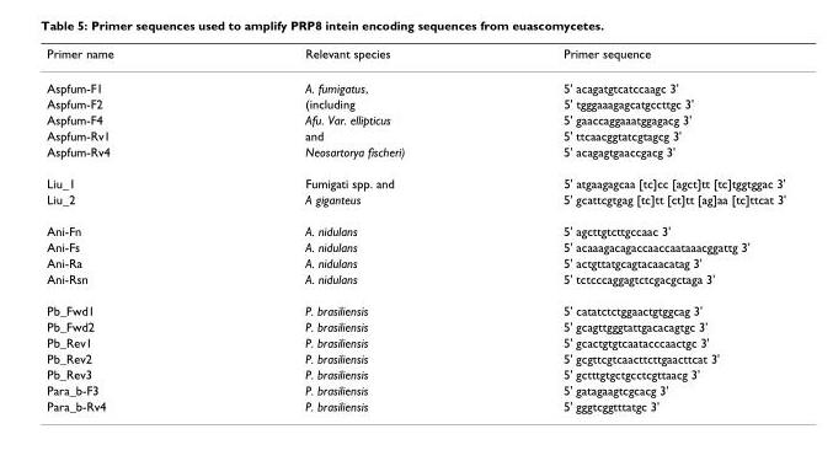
<table><thead><tr><td>Primer name</td><td>Relevant species</td><td>Primer sequence</td></tr></thead><tbody><tr><td>Aspfum-F1</td><td>A. fumigatus,</td><td>5&#x27; acagatgtcatccaagc 3&#x27;</td></tr><tr><td>Aspfum-F2</td><td>(including</td><td>5&#x27; tgggaaagagcatgccttgc 3&#x27;</td></tr><tr><td>Aspfum-F4</td><td>Afu. Var. ellipticus</td><td>5&#x27; gaaccaggaaatggagacg 3&#x27;</td></tr><tr><td>Aspfum-Rv1</td><td>and</td><td>5&#x27; ttcaacggtatcgtagcg 3&#x27;</td></tr><tr><td>Aspfum-Rv4</td><td>Neosartorya fischeri)</td><td>5&#x27; acagagtgaaccgacg 3&#x27;</td></tr><tr><td>Liu_1</td><td>Fumigati spp. and</td><td>5&#x27; atgaagagcaa [tc]cc [agct]tt [tc]tggtggac 3&#x27;</td></tr><tr><td>Liu_2</td><td>A giganteus</td><td>5&#x27; gcattcgtgag [tc]tt [ct]tt [ag]aa [tc]ttcat 3&#x27;</td></tr><tr><td>Ani-Fn</td><td>A. nidulans</td><td>5&#x27; agcttgtcttgccaac 3&#x27;</td></tr><tr><td>Ani-Fs</td><td>A. nidulans</td><td>5&#x27; acaaagacagaccaaccaataaacggattg 3&#x27;</td></tr><tr><td>Ani-Ra</td><td>A. nidulans</td><td>5&#x27; actgttatgcagtacaacatag 3&#x27;</td></tr><tr><td>Ani-Rsn</td><td>A. nidulans</td><td>5&#x27; tctcccaggagtctcgacgctaga 3&#x27;</td></tr><tr><td>Pb_Fwd1</td><td>P. brasiliensis</td><td>5&#x27; catatctctggaactgtggcag 3&#x27;</td></tr><tr><td>Pb_Fwd2</td><td>P. brasiliensis</td><td>5&#x27; gcagttgggtattgacacagtgc 3&#x27;</td></tr><tr><td>Pb_Rev1</td><td>P. brasiliensis</td><td>5&#x27; gcactgtgtcaatacccaactgc 3&#x27;</td></tr><tr><td>Pb_Rev2</td><td>P. brasiliensis</td><td>5&#x27; gcgttcgtcaacttcttgaacttcat 3&#x27;</td></tr><tr><td>Pb_Rev3</td><td>P. brasiliensis</td><td>5&#x27; gctttgtgctgcctcgttaacg 3&#x27;</td></tr><tr><td>Para_b-F3</td><td>P. brasiliensis</td><td>5&#x27; gatagaagtcgcacg 3&#x27;</td></tr><tr><td>Para_b-Rv4</td><td>P. brasiliensis</td><td>5&#x27; gggtcggtttatgc 3&#x27;</td></tr></tbody></table>